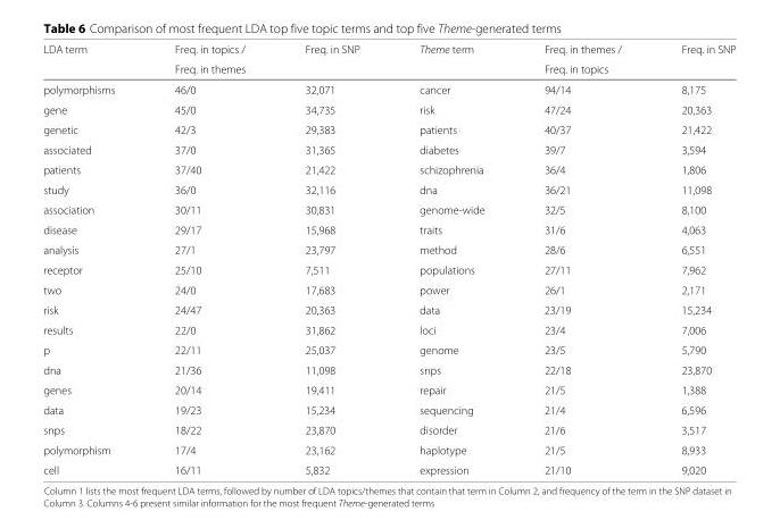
<table><thead><tr><td rowspan="2">LDA term</td><td rowspan="2">Freq. in topics / Freq. in themes</td><td rowspan="2">Freq. in SNP</td><td rowspan="2">Theme term</td><td rowspan="2">Freq. in themes / Freq. in topics</td><td rowspan="2">Freq. in SNP</td></tr><tr></tr></thead><tbody><tr><td>polymorphisms</td><td>46/0</td><td>32,071</td><td>cancer</td><td>94/14</td><td>8,175</td></tr><tr><td>gene</td><td>45/0</td><td>34,735</td><td>risk</td><td>47/24</td><td>20,363</td></tr><tr><td>genetic</td><td>42/3</td><td>29,383</td><td>patients</td><td>40/37</td><td>21,422</td></tr><tr><td>associated</td><td>37/0</td><td>31,365</td><td>diabetes</td><td>39/7</td><td>3,594</td></tr><tr><td>patients</td><td>37/40</td><td>21,422</td><td>schizophrenia</td><td>36/4</td><td>1,806</td></tr><tr><td>study</td><td>36/0</td><td>32,116</td><td>dna</td><td>36/21</td><td>11,098</td></tr><tr><td>association</td><td>30/11</td><td>30,831</td><td>genome-wide</td><td>32/5</td><td>8,100</td></tr><tr><td>disease</td><td>29/17</td><td>15,968</td><td>traits</td><td>31/6</td><td>4,063</td></tr><tr><td>analysis</td><td>27/1</td><td>23,797</td><td>method</td><td>28/6</td><td>6,551</td></tr><tr><td>receptor</td><td>25/10</td><td>7,511</td><td>populations</td><td>27/11</td><td>7,962</td></tr><tr><td>two</td><td>24/0</td><td>17,683</td><td>power</td><td>26/1</td><td>2,171</td></tr><tr><td>risk</td><td>24/47</td><td>20,363</td><td>data</td><td>23/19</td><td>15,234</td></tr><tr><td>results</td><td>22/0</td><td>31,862</td><td>loci</td><td>23/4</td><td>7,006</td></tr><tr><td>p</td><td>22/11</td><td>25,037</td><td>genome</td><td>23/5</td><td>5,790</td></tr><tr><td>dna</td><td>21/36</td><td>11,098</td><td>snps</td><td>22/18</td><td>23,870</td></tr><tr><td>genes</td><td>20/14</td><td>19,411</td><td>repair</td><td>21/5</td><td>1,388</td></tr><tr><td>data</td><td>19/23</td><td>15,234</td><td>sequencing</td><td>21/4</td><td>6,596</td></tr><tr><td>snps</td><td>18/22</td><td>23,870</td><td>disorder</td><td>21/6</td><td>3,517</td></tr><tr><td>polymorphism</td><td>17/4</td><td>23,162</td><td>haplotype</td><td>21/5</td><td>8,933</td></tr><tr><td>cell</td><td>16/11</td><td>5,832</td><td>expression</td><td>21/10</td><td>9,020</td></tr></tbody></table>